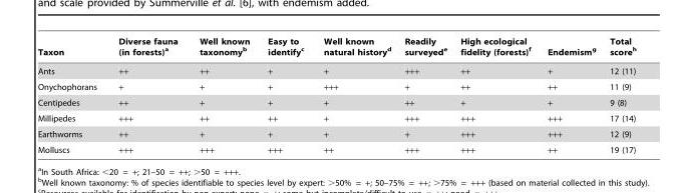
<table><thead><tr><td>Taxon</td><td>Diverse fauna (in forests)<sup>a</sup></td><td>Well known taxonomy<sup>b</sup></td><td>Easy to identify<sup>c</sup></td><td>Well known natural history<sup>d</sup></td><td>Readily surveyed<sup>e</sup></td><td>High ecological fidelity (forests)<sup>f</sup></td><td>Endemism<sup>g</sup></td><td>Total score<sup>h</sup></td></tr></thead><tbody><tr><td>Ants</td><td>++</td><td>++</td><td>+</td><td>+</td><td>+++</td><td>++</td><td>+</td><td>12 (11)</td></tr><tr><td>Onychophorans</td><td>+</td><td>+</td><td>+</td><td>+++</td><td>+</td><td>++</td><td>++</td><td>11 (9)</td></tr><tr><td>Centipedes</td><td>++</td><td>+</td><td>+</td><td>+</td><td>++</td><td>+</td><td>+</td><td>9 (8)</td></tr><tr><td>Millipedes</td><td>+++</td><td>++</td><td>++</td><td>+</td><td>+++</td><td>+++</td><td>+++</td><td>17 (14)</td></tr><tr><td>Earthworms</td><td>++</td><td>+</td><td>+</td><td>+</td><td>+</td><td>+++</td><td>+++</td><td>12 (9)</td></tr><tr><td>Molluscs</td><td>+++</td><td>+++</td><td>+++</td><td>++</td><td>+++</td><td>+++</td><td>++</td><td>19 (17)</td></tr></tbody></table>